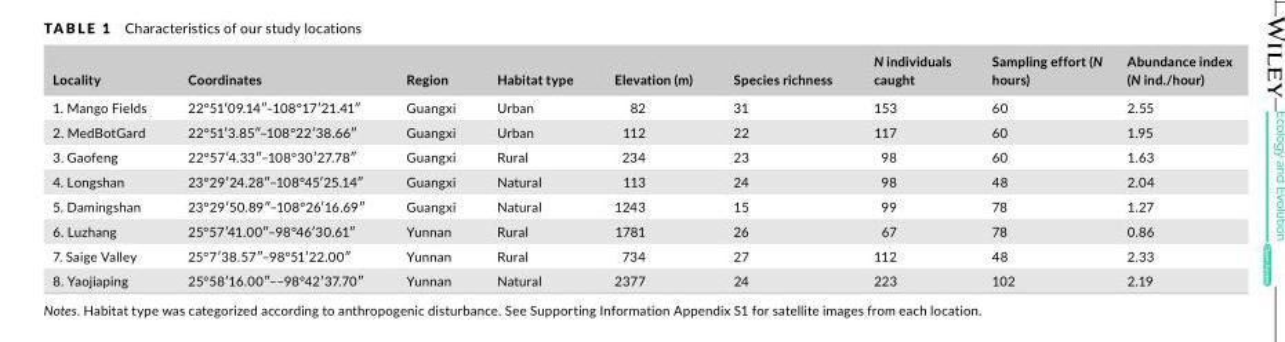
<table><thead><tr><td>Locality</td><td>Coordinates</td><td>Region</td><td>Habitat type</td><td>Elevation (m)</td><td>Species richness</td><td>N individuals caught</td><td>Sampling effort (N hours)</td><td>Abundance index (N ind./hour)</td></tr></thead><tbody><tr><td>1. Mango Fields</td><td>22°51′09.14″–108°17′21.41″</td><td>Guangxi</td><td>Urban</td><td>82</td><td>31</td><td>153</td><td>60</td><td>2.55</td></tr><tr><td>2. MedBotGard</td><td>22°51′3.85″–108°22′38.66″</td><td>Guangxi</td><td>Urban</td><td>112</td><td>22</td><td>117</td><td>60</td><td>1.95</td></tr><tr><td>3. Gaofeng</td><td>22°57′4.33″–108°30′27.78″</td><td>Guangxi</td><td>Rural</td><td>234</td><td>23</td><td>98</td><td>60</td><td>1.63</td></tr><tr><td>4. Longshan</td><td>23°29′24.28″–108°45′25.14″</td><td>Guangxi</td><td>Natural</td><td>113</td><td>24</td><td>98</td><td>48</td><td>2.04</td></tr><tr><td>5. Damingshan</td><td>23°29′50.89″–108°26′16.69″</td><td>Guangxi</td><td>Natural</td><td>1243</td><td>15</td><td>99</td><td>78</td><td>1.27</td></tr><tr><td>6. Luzhang</td><td>25°57′41.00″–98°46′30.61″</td><td>Yunnan</td><td>Rural</td><td>1781</td><td>26</td><td>67</td><td>78</td><td>0.86</td></tr><tr><td>7. Saige Valley</td><td>25°7′38.57″–98°51′22.00″</td><td>Yunnan</td><td>Rural</td><td>734</td><td>27</td><td>112</td><td>48</td><td>2.33</td></tr><tr><td>8. Yaojiaping</td><td>25°58′16.00″––98°42′37.70″</td><td>Yunnan</td><td>Natural</td><td>2377</td><td>24</td><td>223</td><td>102</td><td>2.19</td></tr></tbody></table>